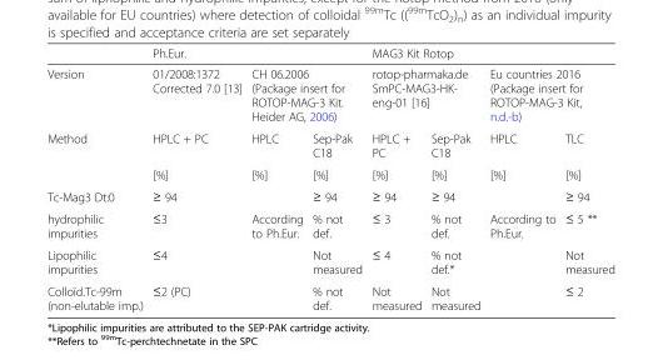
<table><thead><tr><td rowspan="3">Version Method</td><td rowspan="3">Ph.Eur. 01/2008:1372 Corrected 7.0 [13] HPLC + PC</td><td></td><td></td><td rowspan="2" colspan="2">MAG3 Kit Rotop rotop-pharmaka.de SmPC-MAG3-HK- eng-01 [16]</td><td></td><td></td></tr><tr><td colspan="2">CH 06.2006 (Package insert for ROTOP-MAG-3 Kit. Heider AG, 2006)</td><td colspan="2">Eu countries 2016 (Package insert for ROTOP-MAG-3 Kit, n.d.-b)</td></tr><tr><td>HPLC</td><td>Sep-Pak C18</td><td>HPLC + PC</td><td>Sep-Pak C18</td><td>HPLC</td><td>TLC</td></tr></thead><tbody><tr><td></td><td>[%]</td><td>[%]</td><td>[%]</td><td>[%]</td><td>[%]</td><td>[%]</td><td>[%]</td></tr><tr><td>Tc-Mag3 Dt:0</td><td>≥ 94</td><td></td><td>≥ 94</td><td>≥ 94</td><td>≥ 94</td><td></td><td>≥ 94</td></tr><tr><td>hydrophilic impurities</td><td>≤3</td><td>According to Ph.Eur.</td><td>% not def.</td><td>≤ 3</td><td>% not def.</td><td>According to Ph.Eur.</td><td>≤ 5 **</td></tr><tr><td>Lipophilic impurities</td><td>≤4</td><td></td><td>Not measured</td><td>≤ 4</td><td>% not def.*</td><td></td><td>Not measured</td></tr><tr><td>Colloïd.Tc-99m (non-elutable imp.)</td><td>≤2 (PC)</td><td></td><td>% not def.</td><td>Not measured</td><td>Not measured</td><td></td><td>≤ 2</td></tr></tbody></table>